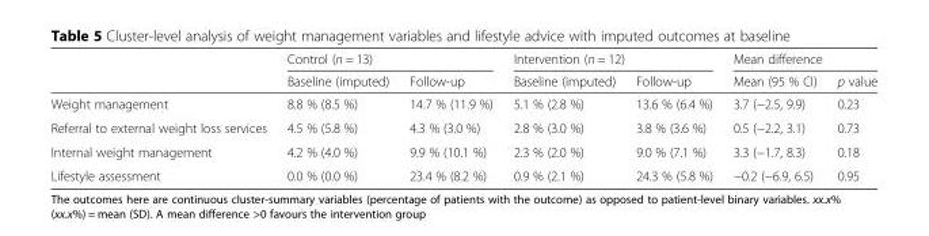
<table><thead><tr><td rowspan="2"></td><td colspan="2">Control (n = 13)</td><td colspan="2">Intervention (n = 12)</td><td colspan="2">Mean difference</td></tr><tr><td>Baseline (imputed)</td><td>Follow-up</td><td>Baseline (imputed)</td><td>Follow-up</td><td>Mean (95 % CI)</td><td>p value</td></tr></thead><tbody><tr><td>Weight management</td><td>8.8 % (8.5 %)</td><td>14.7 % (11.9 %)</td><td>5.1 % (2.8 %)</td><td>13.6 % (6.4 %)</td><td>3.7 (−2.5, 9.9)</td><td>0.23</td></tr><tr><td>Referral to external weight loss services</td><td>4.5 % (5.8 %)</td><td>4.3 % (3.0 %)</td><td>2.8 % (3.0 %)</td><td>3.8 % (3.6 %)</td><td>0.5 (−2.2, 3.1)</td><td>0.73</td></tr><tr><td>Internal weight management</td><td>4.2 % (4.0 %)</td><td>9.9 % (10.1 %)</td><td>2.3 % (2.0 %)</td><td>9.0 % (7.1 %)</td><td>3.3 (−1.7, 8.3)</td><td>0.18</td></tr><tr><td>Lifestyle assessment</td><td>0.0 % (0.0 %)</td><td>23.4 % (8.2 %)</td><td>0.9 % (2.1 %)</td><td>24.3 % (5.8 %)</td><td>−0.2 (−6.9, 6.5)</td><td>0.95</td></tr></tbody></table>